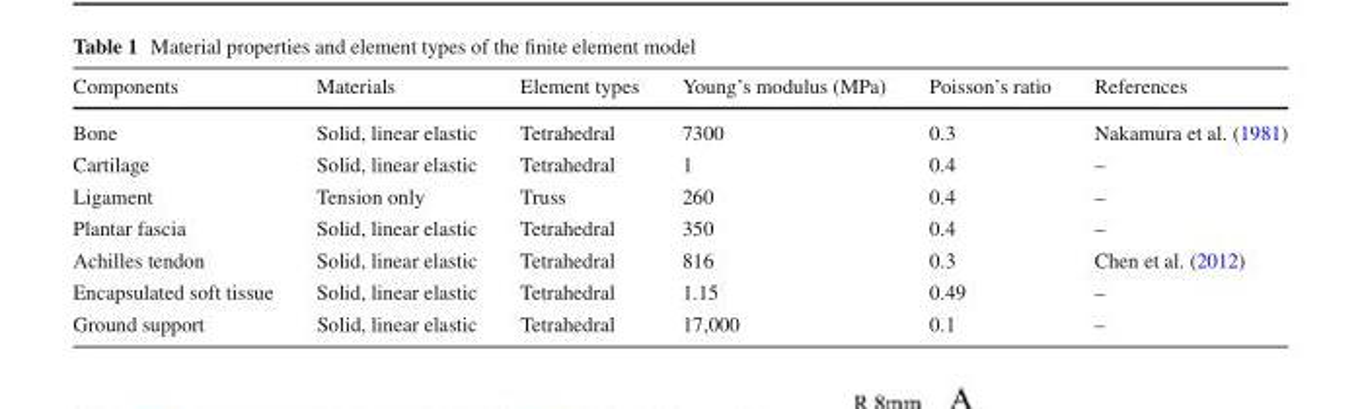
<table><thead><tr><td>Components</td><td>Materials</td><td>Element types</td><td>Young’s modulus (MPa)</td><td>Poisson’s ratio</td><td>References</td></tr></thead><tbody><tr><td>Bone</td><td>Solid, linear elastic</td><td>Tetrahedral</td><td>7300</td><td>0.3</td><td>Nakamura et al. (1981)</td></tr><tr><td>Cartilage</td><td>Solid, linear elastic</td><td>Tetrahedral</td><td>1</td><td>0.4</td><td>–</td></tr><tr><td>Ligament</td><td>Tension only</td><td>Truss</td><td>260</td><td>0.4</td><td>–</td></tr><tr><td>Plantar fascia</td><td>Solid, linear elastic</td><td>Tetrahedral</td><td>350</td><td>0.4</td><td>–</td></tr><tr><td>Achilles tendon</td><td>Solid, linear elastic</td><td>Tetrahedral</td><td>816</td><td>0.3</td><td>Chen et al. (2012)</td></tr><tr><td>Encapsulated soft tissue</td><td>Solid, linear elastic</td><td>Tetrahedral</td><td>1.15</td><td>0.49</td><td>–</td></tr><tr><td>Ground support</td><td>Solid, linear elastic</td><td>Tetrahedral</td><td>17,000</td><td>0.1</td><td>–</td></tr></tbody></table>